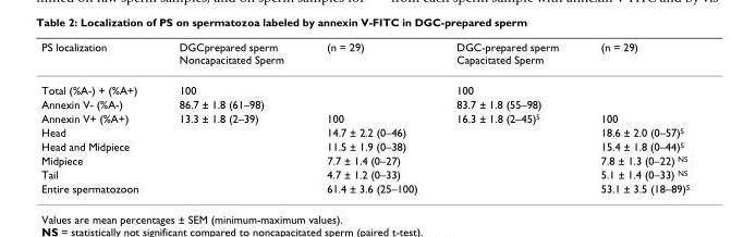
<table><thead><tr><td>PS localization</td><td>DGCprepared sperm Noncapacitated Sperm</td><td>(n = 29)</td><td>DGC-prepared sperm Capacitated Sperm</td><td>(n = 29)</td></tr></thead><tbody><tr><td>Total (%A-) + (%A+)</td><td>100</td><td></td><td>100</td><td></td></tr><tr><td>Annexin V- (%A-)</td><td>86.7 ± 1.8 (61–98)</td><td></td><td>83.7 ± 1.8 (55–98)</td><td></td></tr><tr><td>Annexin V+ (%A+)</td><td>13.3 ± 1.8 (2–39)</td><td>100</td><td>16.3 ± 1.8 (2–45)<sup>S</sup></td><td>100</td></tr><tr><td>Head</td><td></td><td>14.7 ± 2.2 (0–46)</td><td></td><td>18.6 ± 2.0 (0–57)<sup>S</sup></td></tr><tr><td>Head and Midpiece</td><td></td><td>11.5 ± 1.9 (0–38)</td><td></td><td>15.4 ± 1.8 (0–44)<sup>S</sup></td></tr><tr><td>Midpiece</td><td></td><td>7.7 ± 1.4 (0–27)</td><td></td><td>7.8 ± 1.3 (0–22) <sup>NS</sup></td></tr><tr><td>Tail</td><td></td><td>4.7 ± 1.2 (0–33)</td><td></td><td>5.1 ± 1.4 (0–33) <sup>NS</sup></td></tr><tr><td>Entire spermatozoon</td><td></td><td>61.4 ± 3.6 (25–100)</td><td></td><td>53.1 ± 3.5 (18–89)<sup>S</sup></td></tr></tbody></table>